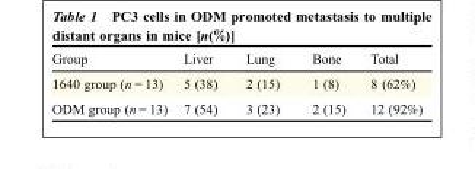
<table><thead><tr><td>Group</td><td>Liver</td><td>Lung</td><td>Bone</td><td>Total</td></tr></thead><tbody><tr><td>1640 group (n = 13)</td><td>5 (38)</td><td>2 (15)</td><td>1 (8)</td><td>8 (62%)</td></tr><tr><td>ODM group (n = 13)</td><td>7 (54)</td><td>3 (23)</td><td>2 (15)</td><td>12 (92%)</td></tr></tbody></table>